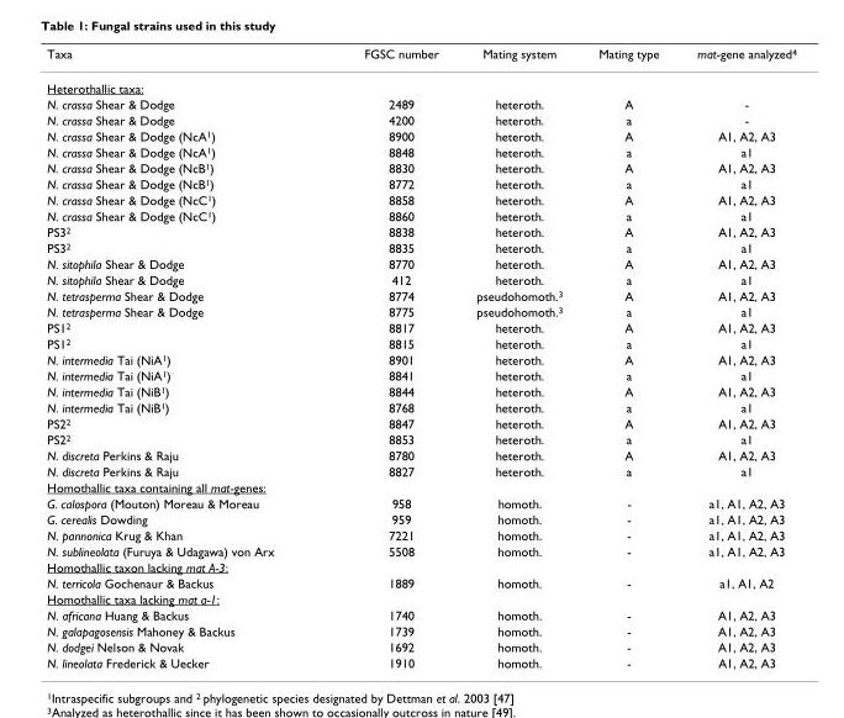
<table><thead><tr><td>Taxa</td><td>FGSC number</td><td>Mating system</td><td>Mating type</td><td>mat-gene analyzed<sup>4</sup></td></tr></thead><tbody><tr><td colspan="5">Heterothallic taxa:</td></tr><tr><td>N. crassa Shear &amp; Dodge</td><td>2489</td><td>heteroth.</td><td>A</td><td>-</td></tr><tr><td>N. crassa Shear &amp; Dodge</td><td>4200</td><td>heteroth.</td><td>a</td><td>-</td></tr><tr><td>N. crassa Shear &amp; Dodge (NcA<sup>1</sup>)</td><td>8900</td><td>heteroth.</td><td>A</td><td>A1, A2, A3</td></tr><tr><td>N. crassa Shear &amp; Dodge (NcA<sup>1</sup>)</td><td>8848</td><td>heteroth.</td><td>a</td><td>a1</td></tr><tr><td>N. crassa Shear &amp; Dodge (NcB<sup>1</sup>)</td><td>8830</td><td>heteroth.</td><td>A</td><td>A1, A2, A3</td></tr><tr><td>N. crassa Shear &amp; Dodge (NcB<sup>1</sup>)</td><td>8772</td><td>heteroth.</td><td>a</td><td>a1</td></tr><tr><td>N. crassa Shear &amp; Dodge (NcC<sup>1</sup>)</td><td>8858</td><td>heteroth.</td><td>A</td><td>A1, A2, A3</td></tr><tr><td>N. crassa Shear &amp; Dodge (NcC<sup>1</sup>)</td><td>8860</td><td>heteroth.</td><td>a</td><td>a1</td></tr><tr><td>PS3<sup>2</sup></td><td>8838</td><td>heteroth.</td><td>A</td><td>A1, A2, A3</td></tr><tr><td>PS3<sup>2</sup></td><td>8835</td><td>heteroth.</td><td>a</td><td>a1</td></tr><tr><td>N. sitophila Shear &amp; Dodge</td><td>8770</td><td>heteroth.</td><td>A</td><td>A1, A2, A3</td></tr><tr><td>N. sitophila Shear &amp; Dodge</td><td>412</td><td>heteroth.</td><td>a</td><td>a1</td></tr><tr><td>N. tetrasperma Shear &amp; Dodge</td><td>8774</td><td>pseudohomoth.<sup>3</sup></td><td>A</td><td>A1, A2, A3</td></tr><tr><td>N. tetrasperma Shear &amp; Dodge</td><td>8775</td><td>pseudohomoth.<sup>3</sup></td><td>a</td><td>a1</td></tr><tr><td>PS1<sup>2</sup></td><td>8817</td><td>heteroth.</td><td>A</td><td>A1, A2, A3</td></tr><tr><td>PS1<sup>2</sup></td><td>8815</td><td>heteroth.</td><td>a</td><td>a1</td></tr><tr><td>N. intermedia Tai (NiA<sup>1</sup>)</td><td>8901</td><td>heteroth.</td><td>A</td><td>A1, A2, A3</td></tr><tr><td>N. intermedia Tai (NiA<sup>1</sup>)</td><td>8841</td><td>heteroth.</td><td>a</td><td>a1</td></tr><tr><td>N. intermedia Tai (NiB<sup>1</sup>)</td><td>8844</td><td>heteroth.</td><td>A</td><td>A1, A2, A3</td></tr><tr><td>N. intermedia Tai (NiB<sup>1</sup>)</td><td>8768</td><td>heteroth.</td><td>a</td><td>a1</td></tr><tr><td>PS2<sup>2</sup></td><td>8847</td><td>heteroth.</td><td>A</td><td>A1, A2, A3</td></tr><tr><td>PS2<sup>2</sup></td><td>8853</td><td>heteroth.</td><td>a</td><td>a1</td></tr><tr><td>N. discreta Perkins &amp; Raju</td><td>8780</td><td>heteroth.</td><td>A</td><td>A1, A2, A3</td></tr><tr><td>N. discreta Perkins &amp; Raju</td><td>8827</td><td>heteroth.</td><td>a</td><td>a1</td></tr><tr><td colspan="5">Homothallic taxa containing all mat-genes:</td></tr><tr><td>G. calospora (Mouton) Moreau &amp; Moreau</td><td>958</td><td>homoth.</td><td>-</td><td>a1, A1, A2, A3</td></tr><tr><td>G. cerealis Dowding</td><td>959</td><td>homoth.</td><td>-</td><td>a1, A1, A2, A3</td></tr><tr><td>N. pannonica Krug &amp; Khan</td><td>7221</td><td>homoth.</td><td>-</td><td>a1, A1, A2, A3</td></tr><tr><td>N. sublineolata (Furuya &amp; Udagawa) von Arx</td><td>5508</td><td>homoth.</td><td>-</td><td>a1, A1, A2, A3</td></tr><tr><td colspan="5">Homothallic taxon lacking mat A-3:</td></tr><tr><td>N. terricola Gochenaur &amp; Backus</td><td>1889</td><td>homoth.</td><td>-</td><td>a1, A1, A2</td></tr><tr><td colspan="5">Homothallic taxa lacking mat a-1:</td></tr><tr><td>N. africana Huang &amp; Backus</td><td>1740</td><td>homoth.</td><td>-</td><td>A1, A2, A3</td></tr><tr><td>N. galapagosensis Mahoney &amp; Backus</td><td>1739</td><td>homoth.</td><td>-</td><td>A1, A2, A3</td></tr><tr><td>N. dodgei Nelson &amp; Novak</td><td>1692</td><td>homoth.</td><td>-</td><td>A1, A2, A3</td></tr><tr><td>N. lineolata Frederick &amp; Uecker</td><td>1910</td><td>homoth.</td><td>-</td><td>A1, A2, A3</td></tr></tbody></table>